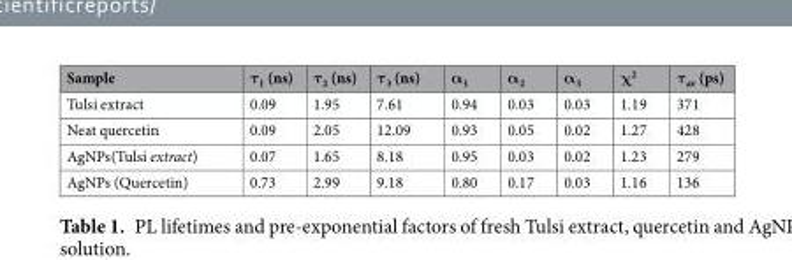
<table><thead><tr><td>Sample</td><td>τ<sub>1</sub> (ns)</td><td>τ<sub>2</sub> (ns)</td><td>τ<sub>3</sub> (ns)</td><td>α<sub>1</sub></td><td>α<sub>2</sub></td><td>α<sub>3</sub></td><td>χ<sup>2</sup></td><td>τ<sub>av</sub> (ps)</td></tr></thead><tbody><tr><td>Tulsi extract</td><td>0.09</td><td>1.95</td><td>7.61</td><td>0.94</td><td>0.03</td><td>0.03</td><td>1.19</td><td>371</td></tr><tr><td>Neat quercetin</td><td>0.09</td><td>2.05</td><td>12.09</td><td>0.93</td><td>0.05</td><td>0.02</td><td>1.27</td><td>428</td></tr><tr><td>AgNPs(Tulsi extract)</td><td>0.07</td><td>1.65</td><td>8.18</td><td>0.95</td><td>0.03</td><td>0.02</td><td>1.23</td><td>279</td></tr><tr><td>AgNPs (Quercetin)</td><td>0.73</td><td>2.99</td><td>9.18</td><td>0.80</td><td>0.17</td><td>0.03</td><td>1.16</td><td>136</td></tr></tbody></table>